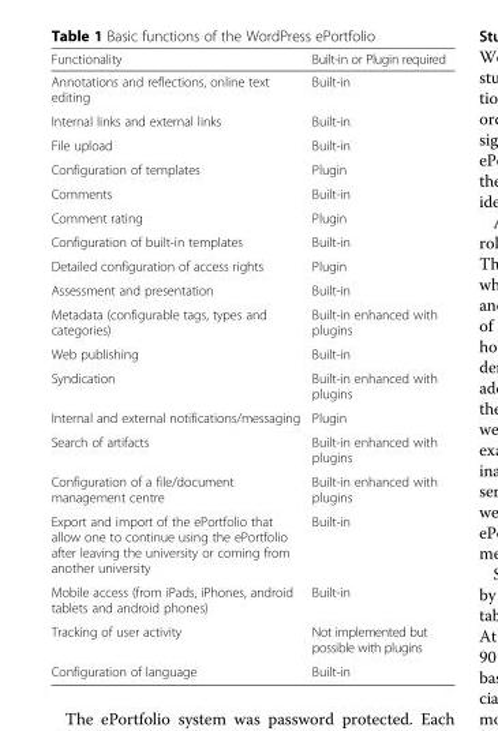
<table><thead><tr><td>Functionality</td><td>Built-in or Plugin required</td></tr></thead><tbody><tr><td>Annotations and reflections, online text editing</td><td>Built-in</td></tr><tr><td>Internal links and external links</td><td>Built-in</td></tr><tr><td>File upload</td><td>Built-in</td></tr><tr><td>Configuration of templates</td><td>Plugin</td></tr><tr><td>Comments</td><td>Built-in</td></tr><tr><td>Comment rating</td><td>Plugin</td></tr><tr><td>Configuration of built-in templates</td><td>Built-in</td></tr><tr><td>Detailed configuration of access rights</td><td>Plugin</td></tr><tr><td>Assessment and presentation</td><td>Built-in</td></tr><tr><td>Metadata (configurable tags, types and categories)</td><td>Built-in enhanced with plugins</td></tr><tr><td>Web publishing</td><td>Built-in</td></tr><tr><td>Syndication</td><td>Built-in enhanced with plugins</td></tr><tr><td>Internal and external notifications/messaging</td><td>Plugin</td></tr><tr><td>Search of artifacts</td><td>Built-in enhanced with plugins</td></tr><tr><td>Configuration of a file/document management centre</td><td>Built-in enhanced with plugins</td></tr><tr><td>Export and import of the ePortfolio that allow one to continue using the ePortfolio after leaving the university or coming from another university</td><td>Built-in</td></tr><tr><td>Mobile access (from iPads, iPhones, android tablets and android phones)</td><td>Built-in</td></tr><tr><td>Tracking of user activity</td><td>Not implemented but possible with plugins</td></tr><tr><td>Configuration of language</td><td>Built-in</td></tr></tbody></table>